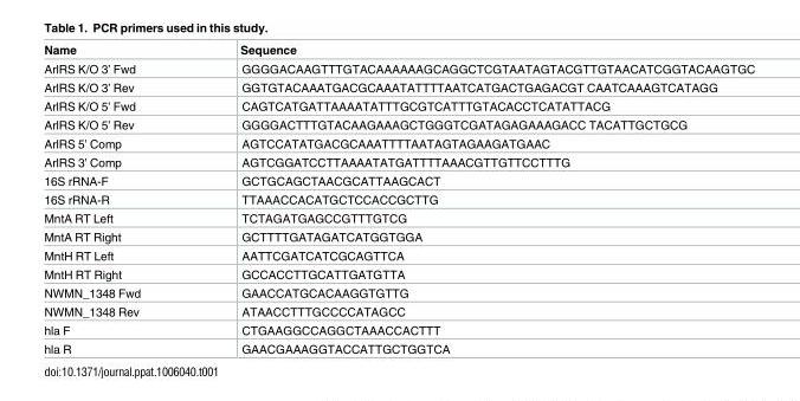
<table><thead><tr><td>Name</td><td>Sequence</td></tr></thead><tbody><tr><td>ArlRS K/O 3’ Fwd</td><td>GGGGACAAGTTTGTACAAAAAAGCAGGCTCGTAATAGTACGTTGTAACATCGGTACAAGTGC</td></tr><tr><td>ArlRS K/O 3’ Rev</td><td>GGTGTACAAATGACGCAAATATTTTAATCATGACTGAGACGT CAATCAAAGTCATAGG</td></tr><tr><td>ArlRS K/O 5’ Fwd</td><td>CAGTCATGATTAAAATATTTGCGTCATTTGTACACCTCATATTACG</td></tr><tr><td>ArlRS K/O 5’ Rev</td><td>GGGGACTTTGTACAAGAAAGCTGGGTCGATAGAGAAAGACC TACATTGCTGCG</td></tr><tr><td>ArlRS 5’ Comp</td><td>AGTCCATATGACGCAAATTTTAATAGTAGAAGATGAAC</td></tr><tr><td>ArlRS 3’ Comp</td><td>AGTCGGATCCTTAAAATATGATTTTAAACGTTGTTCCTTTG</td></tr><tr><td>16S rRNA-F</td><td>GCTGCAGCTAACGCATTAAGCACT</td></tr><tr><td>16S rRNA-R</td><td>TTAAACCACATGCTCCACCGCTTG</td></tr><tr><td>MntA RT Left</td><td>TCTAGATGAGCCGTTTGTCG</td></tr><tr><td>MntA RT Right</td><td>GCTTTTGATAGATCATGGTGGA</td></tr><tr><td>MntH RT Left</td><td>AATTCGATCATCGCAGTTCA</td></tr><tr><td>MntH RT Right</td><td>GCCACCTTGCATTGATGTTA</td></tr><tr><td>NWMN_1348 Fwd</td><td>GAACCATGCACAAGGTGTTG</td></tr><tr><td>NWMN_1348 Rev</td><td>ATAACCTTTGCCCCATAGCC</td></tr><tr><td>hla F</td><td>CTGAAGGCCAGGCTAAACCACTTT</td></tr><tr><td>hla R</td><td>GAACGAAAGGTACCATTGCTGGTCA</td></tr></tbody></table>